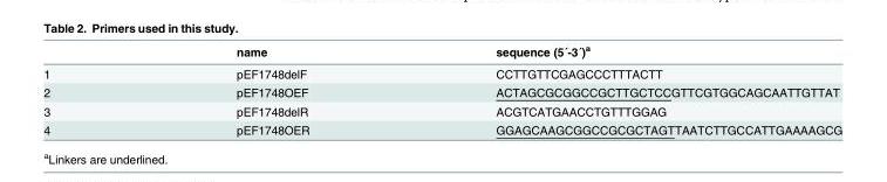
<table><thead><tr><td></td><td>name</td><td>sequence (5´-3´)<sup>a</sup></td></tr></thead><tbody><tr><td>1</td><td>pEF1748delF</td><td>CCTTGTTCGAGCCCTTTACTT</td></tr><tr><td>2</td><td>pEF1748OEF</td><td>ACTAGCGCGGCCGCTTGCTCCGTTCGTGGCAGCAATTGTTAT</td></tr><tr><td>3</td><td>pEF1748delR</td><td>ACGTCATGAACCTGTTTGGAG</td></tr><tr><td>4</td><td>pEF1748OER</td><td>GGAGCAAGCGGCCGCGCTAGTTAATCTTGCCATTGAAAAGCG</td></tr></tbody></table>